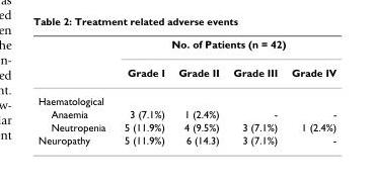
<table><thead><tr><td rowspan="2"></td><td colspan="4">No. of Patients (n = 42)</td></tr><tr><td>Grade I</td><td>Grade II</td><td>Grade III</td><td>Grade IV</td></tr></thead><tbody><tr><td colspan="5">Haematological</td></tr><tr><td>Anaemia</td><td>3 (7.1%)</td><td>1 (2.4%)</td><td>-</td><td>-</td></tr><tr><td>Neutropenia</td><td>5 (11.9%)</td><td>4 (9.5%)</td><td>3 (7.1%)</td><td>1 (2.4%)</td></tr><tr><td>Neuropathy</td><td>5 (11.9%)</td><td>6 (14.3)</td><td>3 (7.1%)</td><td>-</td></tr></tbody></table>